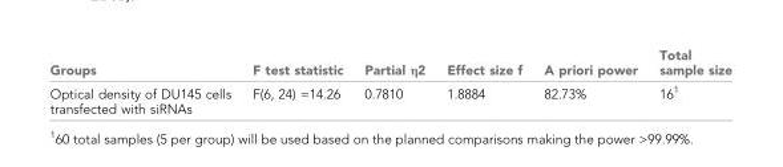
<table><thead><tr><td>Groups</td><td>F test statistic</td><td>Partial η2</td><td>Effect size f</td><td>A priori power</td><td>Total sample size</td></tr></thead><tbody><tr><td>Optical density of DU145 cells transfected with siRNAs</td><td>F(6, 24) =14.26</td><td>0.7810</td><td>1.8884</td><td>82.73%</td><td>16<sup>1</sup></td></tr></tbody></table>